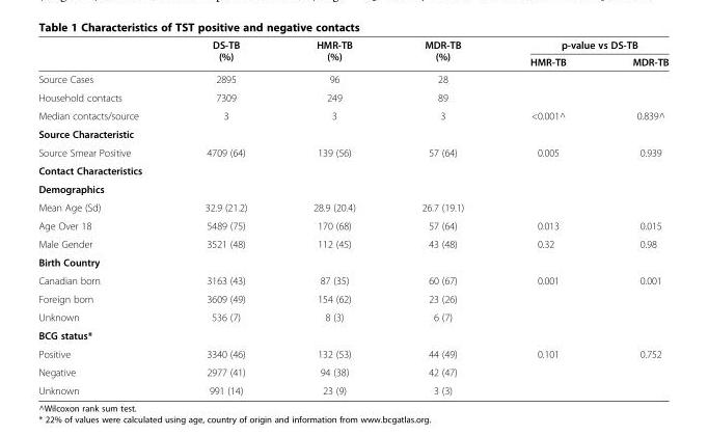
<table><thead><tr><td rowspan="2"></td><td rowspan="2">DS-TB (%)</td><td rowspan="2">HMR-TB (%)</td><td rowspan="2">MDR-TB (%)</td><td colspan="2">p-value vs DS-TB</td></tr><tr><td>HMR-TB</td><td>MDR-TB</td></tr></thead><tbody><tr><td>Source Cases</td><td>2895</td><td>96</td><td>28</td><td></td><td></td></tr><tr><td>Household contacts</td><td>7309</td><td>249</td><td>89</td><td></td><td></td></tr><tr><td>Median contacts/source</td><td>3</td><td>3</td><td>3</td><td>&lt;0.001^</td><td>0.839^</td></tr><tr><td colspan="6">Source Characteristic</td></tr><tr><td>Source Smear Positive</td><td>4709 (64)</td><td>139 (56)</td><td>57 (64)</td><td>0.005</td><td>0.939</td></tr><tr><td colspan="6">Contact Characteristics</td></tr><tr><td colspan="6">Demographics</td></tr><tr><td>Mean Age (Sd)</td><td>32.9 (21.2)</td><td>28.9 (20.4)</td><td>26.7 (19.1)</td><td></td><td></td></tr><tr><td>Age Over 18</td><td>5489 (75)</td><td>170 (68)</td><td>57 (64)</td><td>0.013</td><td>0.015</td></tr><tr><td>Male Gender</td><td>3521 (48)</td><td>112 (45)</td><td>43 (48)</td><td>0.32</td><td>0.98</td></tr><tr><td colspan="6">Birth Country</td></tr><tr><td>Canadian born</td><td>3163 (43)</td><td>87 (35)</td><td>60 (67)</td><td>0.001</td><td>0.001</td></tr><tr><td>Foreign born</td><td>3609 (49)</td><td>154 (62)</td><td>23 (26)</td><td></td><td></td></tr><tr><td>Unknown</td><td>536 (7)</td><td>8 (3)</td><td>6 (7)</td><td></td><td></td></tr><tr><td colspan="6">BCG status*</td></tr><tr><td>Positive</td><td>3340 (46)</td><td>132 (53)</td><td>44 (49)</td><td>0.101</td><td>0.752</td></tr><tr><td>Negative</td><td>2977 (41)</td><td>94 (38)</td><td>42 (47)</td><td></td><td></td></tr><tr><td>Unknown</td><td>991 (14)</td><td>23 (9)</td><td>3 (3)</td><td></td><td></td></tr></tbody></table>